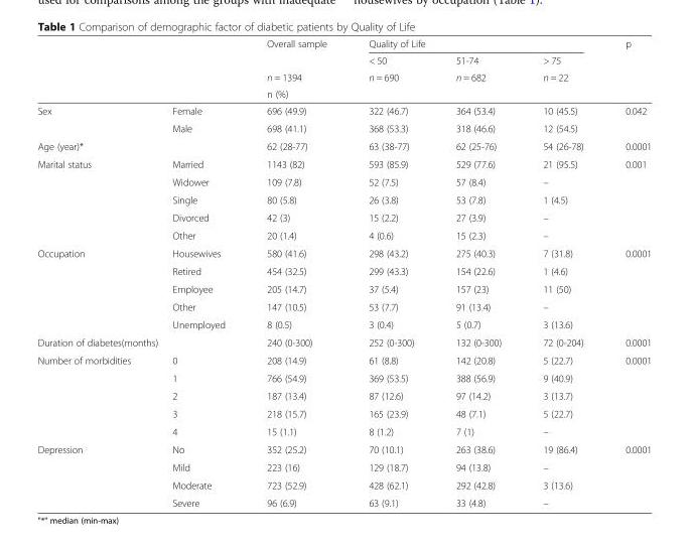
<table><thead><tr><td rowspan="4"></td><td rowspan="4"></td><td rowspan="3">Overall sample n = 1394</td><td colspan="3">Quality of Life</td><td rowspan="4">p</td></tr><tr><td rowspan="2">&lt; 50 n = 690</td><td rowspan="2">51-74 n = 682</td><td rowspan="2">&gt; 75 n = 22</td></tr><tr></tr><tr><td colspan="4">n (%)</td></tr></thead><tbody><tr><td rowspan="2">Sex</td><td>Female</td><td>696 (49.9)</td><td>322 (46.7)</td><td>364 (53.4)</td><td>10 (45.5)</td><td>0.042</td></tr><tr><td>Male</td><td>698 (41.1)</td><td>368 (53.3)</td><td>318 (46.6)</td><td>12 (54.5)</td><td></td></tr><tr><td colspan="2">Age (year)*</td><td>62 (28-77)</td><td>63 (38-77)</td><td>62 (25-76)</td><td>54 (26-78)</td><td>0.0001</td></tr><tr><td rowspan="5">Marital status</td><td>Married</td><td>1143 (82)</td><td>593 (85.9)</td><td>529 (77.6)</td><td>21 (95.5)</td><td>0.001</td></tr><tr><td>Widower</td><td>109 (7.8)</td><td>52 (7.5)</td><td>57 (8.4)</td><td>–</td><td></td></tr><tr><td>Single</td><td>80 (5.8)</td><td>26 (3.8)</td><td>53 (7.8)</td><td>1 (4.5)</td><td></td></tr><tr><td>Divorced</td><td>42 (3)</td><td>15 (2.2)</td><td>27 (3.9)</td><td>–</td><td></td></tr><tr><td>Other</td><td>20 (1.4)</td><td>4 (0.6)</td><td>15 (2.3)</td><td>–</td><td></td></tr><tr><td rowspan="5">Occupation</td><td>Housewives</td><td>580 (41.6)</td><td>298 (43.2)</td><td>275 (40.3)</td><td>7 (31.8)</td><td>0.0001</td></tr><tr><td>Retired</td><td>454 (32.5)</td><td>299 (43.3)</td><td>154 (22.6)</td><td>1 (4.6)</td><td></td></tr><tr><td>Employee</td><td>205 (14.7)</td><td>37 (5.4)</td><td>157 (23)</td><td>11 (50)</td><td></td></tr><tr><td>Other</td><td>147 (10.5)</td><td>53 (7.7)</td><td>91 (13.4)</td><td>–</td><td></td></tr><tr><td>Unemployed</td><td>8 (0.5)</td><td>3 (0.4)</td><td>5 (0.7)</td><td>3 (13.6)</td><td></td></tr><tr><td colspan="2">Duration of diabetes(months)</td><td>240 (0-300)</td><td>252 (0-300)</td><td>132 (0-300)</td><td>72 (0-204)</td><td>0.0001</td></tr><tr><td rowspan="5">Number of morbidities</td><td>0</td><td>208 (14.9)</td><td>61 (8.8)</td><td>142 (20.8)</td><td>5 (22.7)</td><td>0.0001</td></tr><tr><td>1</td><td>766 (54.9)</td><td>369 (53.5)</td><td>388 (56.9)</td><td>9 (40.9)</td><td></td></tr><tr><td>2</td><td>187 (13.4)</td><td>87 (12.6)</td><td>97 (14.2)</td><td>3 (13.7)</td><td></td></tr><tr><td>3</td><td>218 (15.7)</td><td>165 (23.9)</td><td>48 (7.1)</td><td>5 (22.7)</td><td></td></tr><tr><td>4</td><td>15 (1.1)</td><td>8 (1.2)</td><td>7 (1)</td><td>–</td><td></td></tr><tr><td rowspan="4">Depression</td><td>No</td><td>352 (25.2)</td><td>70 (10.1)</td><td>263 (38.6)</td><td>19 (86.4)</td><td>0.0001</td></tr><tr><td>Mild</td><td>223 (16)</td><td>129 (18.7)</td><td>94 (13.8)</td><td>–</td><td></td></tr><tr><td>Moderate</td><td>723 (52.9)</td><td>428 (62.1)</td><td>292 (42.8)</td><td>3 (13.6)</td><td></td></tr><tr><td>Severe</td><td>96 (6.9)</td><td>63 (9.1)</td><td>33 (4.8)</td><td>–</td><td></td></tr></tbody></table>